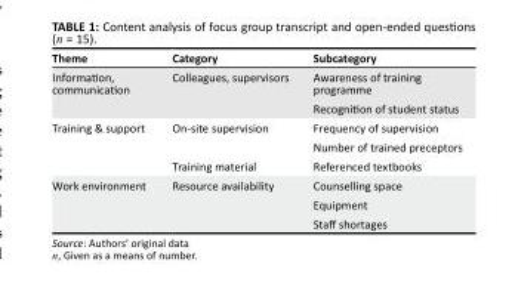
<table><thead><tr><td>Theme</td><td>Category</td><td>Subcategory</td></tr></thead><tbody><tr><td rowspan="2">Information, communication</td><td>Colleagues, supervisors</td><td>Awareness of training programme</td></tr><tr><td></td><td>Recognition of student status</td></tr><tr><td rowspan="3">Training &amp; support</td><td>On-site supervision</td><td>Frequency of supervision</td></tr><tr><td></td><td>Number of trained preceptors</td></tr><tr><td>Training material</td><td>Referenced textbooks</td></tr><tr><td rowspan="3">Work environment</td><td>Resource availability</td><td>Counselling space</td></tr><tr><td></td><td>Equipment</td></tr><tr><td></td><td>Staff shortages</td></tr></tbody></table>